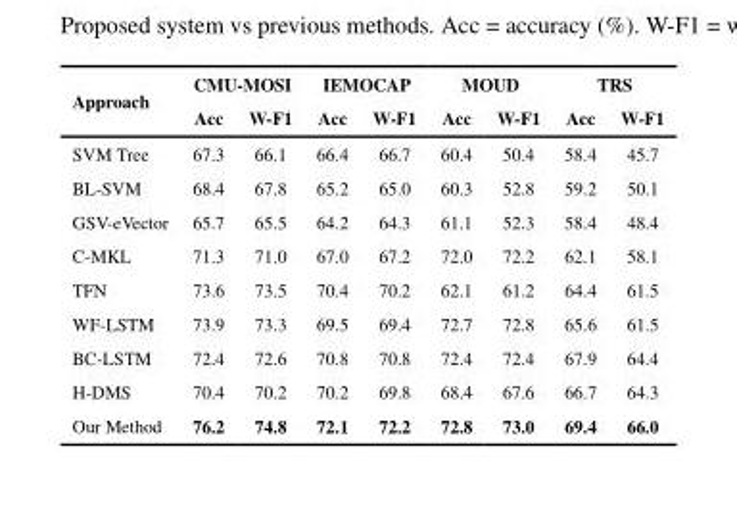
<table><thead><tr><td rowspan="2">Approach</td><td colspan="2">CMU-MOSI</td><td colspan="2">IEMOCAP</td><td colspan="2">MOUD</td><td colspan="2">TRS</td></tr><tr><td>Acc</td><td>W-F1</td><td>Acc</td><td>W-F1</td><td>Acc</td><td>W-F1</td><td>Acc</td><td>W-F1</td></tr></thead><tbody><tr><td>SVM Tree</td><td>67.3</td><td>66.1</td><td>66.4</td><td>66.7</td><td>60.4</td><td>50.4</td><td>58.4</td><td>45.7</td></tr><tr><td>BL-SVM</td><td>68.4</td><td>67.8</td><td>65.2</td><td>65.0</td><td>60.3</td><td>52.8</td><td>59.2</td><td>50.1</td></tr><tr><td>GSV-eVector</td><td>65.7</td><td>65.5</td><td>64.2</td><td>64.3</td><td>61.1</td><td>52.3</td><td>58.4</td><td>48.4</td></tr><tr><td>C-MKL</td><td>71.3</td><td>71.0</td><td>67.0</td><td>67.2</td><td>72.0</td><td>72.2</td><td>62.1</td><td>58.1</td></tr><tr><td>TFN</td><td>73.6</td><td>73.5</td><td>70.4</td><td>70.2</td><td>62.1</td><td>61.2</td><td>64.4</td><td>61.5</td></tr><tr><td>WF-LSTM</td><td>73.9</td><td>73.3</td><td>69.5</td><td>69.4</td><td>72.7</td><td>72.8</td><td>65.6</td><td>61.5</td></tr><tr><td>BC-LSTM</td><td>72.4</td><td>72.6</td><td>70.8</td><td>70.8</td><td>72.4</td><td>72.4</td><td>67.9</td><td>64.4</td></tr><tr><td>H-DMS</td><td>70.4</td><td>70.2</td><td>70.2</td><td>69.8</td><td>68.4</td><td>67.6</td><td>66.7</td><td>64.3</td></tr><tr><td>Our Method</td><td>76.2</td><td>74.8</td><td>72.1</td><td>72.2</td><td>72.8</td><td>73.0</td><td>69.4</td><td>66.0</td></tr></tbody></table>